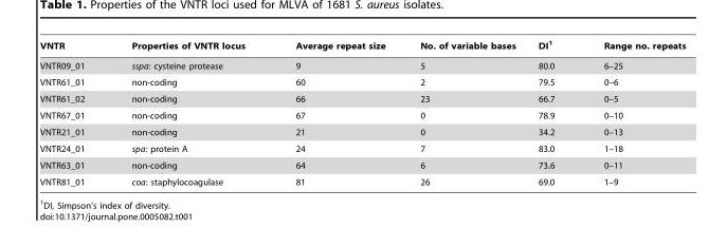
<table><thead><tr><td>VNTR</td><td>Properties of VNTR locus</td><td>Average repeat size</td><td>No. of variable bases</td><td>DI<sup>1</sup></td><td>Range no. repeats</td></tr></thead><tbody><tr><td>VNTR09_01</td><td>sspa: cysteine protease</td><td>9</td><td>5</td><td>80.0</td><td>6–25</td></tr><tr><td>VNTR61_01</td><td>non-coding</td><td>60</td><td>2</td><td>79.5</td><td>0–6</td></tr><tr><td>VNTR61_02</td><td>non-coding</td><td>66</td><td>23</td><td>66.7</td><td>0–5</td></tr><tr><td>VNTR67_01</td><td>non-coding</td><td>67</td><td>0</td><td>78.9</td><td>0–10</td></tr><tr><td>VNTR21_01</td><td>non-coding</td><td>21</td><td>0</td><td>34.2</td><td>0–13</td></tr><tr><td>VNTR24_01</td><td>spa: protein A</td><td>24</td><td>7</td><td>83.0</td><td>1–18</td></tr><tr><td>VNTR63_01</td><td>non-coding</td><td>64</td><td>6</td><td>73.6</td><td>0–11</td></tr><tr><td>VNTR81_01</td><td>coa: staphylocoagulase</td><td>81</td><td>26</td><td>69.0</td><td>1–9</td></tr></tbody></table>